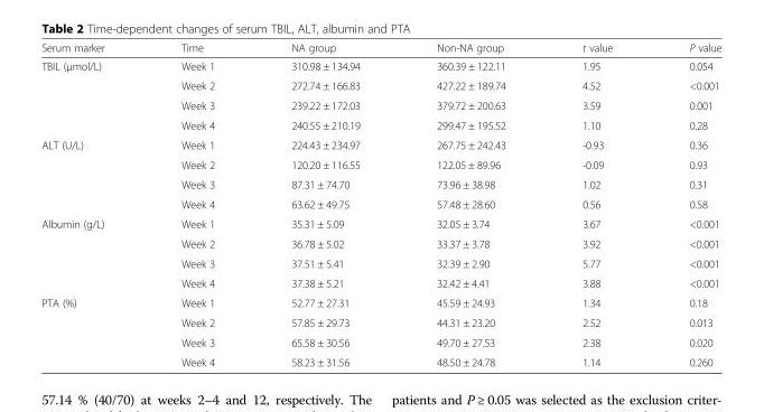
<table><thead><tr><td>Serum marker</td><td>Time</td><td>NA group</td><td>Non-NA group</td><td>t value</td><td>P value</td></tr></thead><tbody><tr><td rowspan="4">TBIL (μmol/L)</td><td>Week 1</td><td>310.98 ± 134.94</td><td>360.39 ± 122.11</td><td>1.95</td><td>0.054</td></tr><tr><td>Week 2</td><td>272.74 ± 166.83</td><td>427.22 ± 189.74</td><td>4.52</td><td>&lt;0.001</td></tr><tr><td>Week 3</td><td>239.22 ± 172.03</td><td>379.72 ± 200.63</td><td>3.59</td><td>0.001</td></tr><tr><td>Week 4</td><td>240.55 ± 210.19</td><td>299.47 ± 195.52</td><td>1.10</td><td>0.28</td></tr><tr><td rowspan="4">ALT (U/L)</td><td>Week 1</td><td>224.43 ± 234.97</td><td>267.75 ± 242.43</td><td>-0.93</td><td>0.36</td></tr><tr><td>Week 2</td><td>120.20 ± 116.55</td><td>122.05 ± 89.96</td><td>-0.09</td><td>0.93</td></tr><tr><td>Week 3</td><td>87.31 ± 74.70</td><td>73.96 ± 38.98</td><td>1.02</td><td>0.31</td></tr><tr><td>Week 4</td><td>63.62 ± 49.75</td><td>57.48 ± 28.60</td><td>0.56</td><td>0.58</td></tr><tr><td rowspan="4">Albumin (g/L)</td><td>Week 1</td><td>35.31 ± 5.09</td><td>32.05 ± 3.74</td><td>3.67</td><td>&lt;0.001</td></tr><tr><td>Week 2</td><td>36.78 ± 5.02</td><td>33.37 ± 3.78</td><td>3.92</td><td>&lt;0.001</td></tr><tr><td>Week 3</td><td>37.51 ± 5.41</td><td>32.39 ± 2.90</td><td>5.77</td><td>&lt;0.001</td></tr><tr><td>Week 4</td><td>37.38 ± 5.21</td><td>32.42 ± 4.41</td><td>3.88</td><td>&lt;0.001</td></tr><tr><td rowspan="4">PTA (%)</td><td>Week 1</td><td>52.77 ± 27.31</td><td>45.59 ± 24.93</td><td>1.34</td><td>0.18</td></tr><tr><td>Week 2</td><td>57.85 ± 29.73</td><td>44.31 ± 23.20</td><td>2.52</td><td>0.013</td></tr><tr><td>Week 3</td><td>65.58 ± 30.56</td><td>49.70 ± 27.53</td><td>2.38</td><td>0.020</td></tr><tr><td>Week 4</td><td>58.23 ± 31.56</td><td>48.50 ± 24.78</td><td>1.14</td><td>0.260</td></tr></tbody></table>